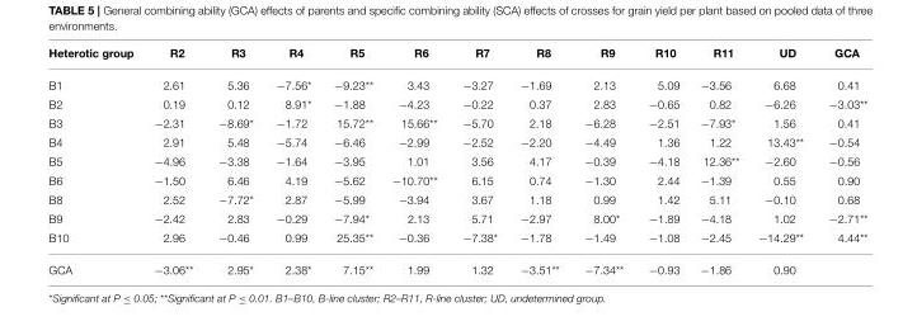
<table><thead><tr><td>Heterotic group</td><td>R2</td><td>R3</td><td>R4</td><td>R5</td><td>R6</td><td>R7</td><td>R8</td><td>R9</td><td>R10</td><td>R11</td><td>UD</td><td>GCA</td></tr></thead><tbody><tr><td>B1</td><td>2.61</td><td>5.36</td><td>−7.56*</td><td>−9.23**</td><td>3.43</td><td>−3.27</td><td>−1.69</td><td>2.13</td><td>5.09</td><td>−3.56</td><td>6.68</td><td>0.41</td></tr><tr><td>B2</td><td>0.19</td><td>0.12</td><td>8.91*</td><td>−1.88</td><td>−4.23</td><td>−0.22</td><td>0.37</td><td>2.83</td><td>−0.65</td><td>0.82</td><td>−6.26</td><td>−3.03**</td></tr><tr><td>B3</td><td>−2.31</td><td>−8.69*</td><td>−1.72</td><td>15.72**</td><td>15.66**</td><td>−5.70</td><td>2.18</td><td>−6.28</td><td>−2.51</td><td>−7.93*</td><td>1.56</td><td>0.41</td></tr><tr><td>B4</td><td>2.91</td><td>5.48</td><td>−5.74</td><td>−6.46</td><td>−2.99</td><td>−2.52</td><td>−2.20</td><td>−4.49</td><td>1.36</td><td>1.22</td><td>13.43**</td><td>−0.54</td></tr><tr><td>B5</td><td>−4.96</td><td>−3.38</td><td>−1.64</td><td>−3.95</td><td>1.01</td><td>3.56</td><td>4.17</td><td>−0.39</td><td>−4.18</td><td>12.36**</td><td>−2.60</td><td>−0.56</td></tr><tr><td>B6</td><td>−1.50</td><td>6.46</td><td>4.19</td><td>−5.62</td><td>−10.70**</td><td>6.15</td><td>0.74</td><td>−1.30</td><td>2.44</td><td>−1.39</td><td>0.55</td><td>0.90</td></tr><tr><td>B8</td><td>2.52</td><td>−7.72*</td><td>2.87</td><td>−5.99</td><td>−3.94</td><td>3.67</td><td>1.18</td><td>0.99</td><td>1.42</td><td>5.11</td><td>−0.10</td><td>0.68</td></tr><tr><td>B9</td><td>−2.42</td><td>2.83</td><td>−0.29</td><td>−7.94*</td><td>2.13</td><td>5.71</td><td>−2.97</td><td>8.00*</td><td>−1.89</td><td>−4.18</td><td>1.02</td><td>−2.71**</td></tr><tr><td>B10</td><td>2.96</td><td>−0.46</td><td>0.99</td><td>25.35**</td><td>−0.36</td><td>−7.38*</td><td>−1.78</td><td>−1.49</td><td>−1.08</td><td>−2.45</td><td>−14.29**</td><td>4.44**</td></tr><tr><td>GCA</td><td>−3.06**</td><td>2.95*</td><td>2.38*</td><td>7.15**</td><td>1.99</td><td>1.32</td><td>−3.51**</td><td>−7.34**</td><td>−0.93</td><td>−1.86</td><td>0.90</td><td></td></tr></tbody></table>